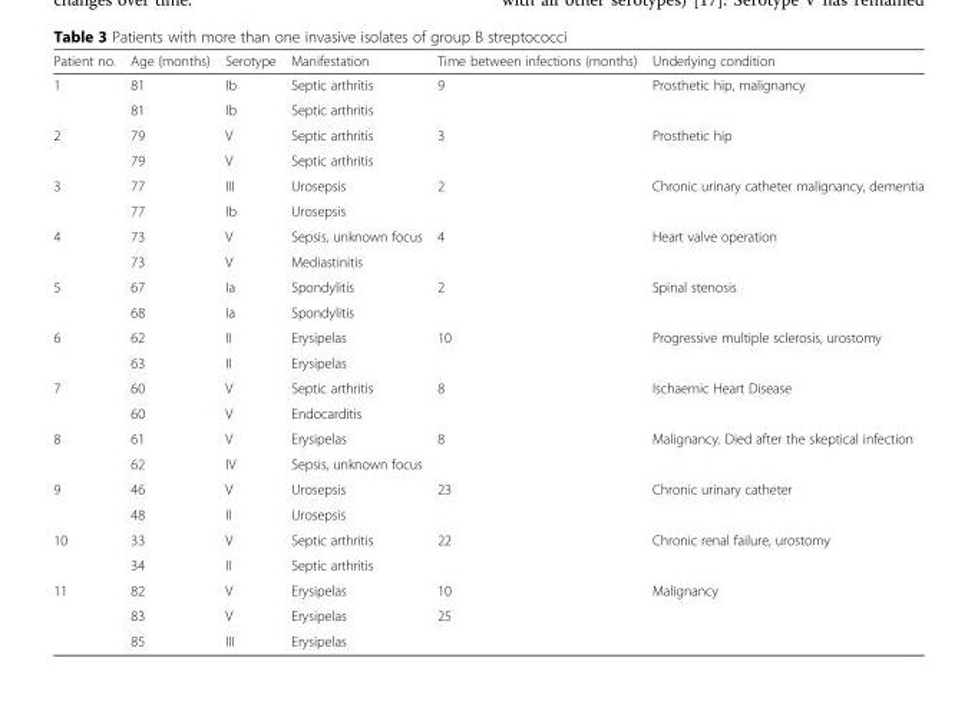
<table><thead><tr><td>Patient no.</td><td>Age (months)</td><td>Serotype</td><td>Manifestation</td><td>Time between infections (months)</td><td>Underlying condition</td></tr></thead><tbody><tr><td rowspan="2">1</td><td>81</td><td>Ib</td><td>Septic arthritis</td><td rowspan="2">9</td><td rowspan="2">Prosthetic hip, malignancy</td></tr><tr><td>81</td><td>Ib</td><td>Septic arthritis</td></tr><tr><td rowspan="2">2</td><td>79</td><td>V</td><td>Septic arthritis</td><td rowspan="2">3</td><td rowspan="2">Prosthetic hip</td></tr><tr><td>79</td><td>V</td><td>Septic arthritis</td></tr><tr><td rowspan="2">3</td><td>77</td><td>III</td><td>Urosepsis</td><td rowspan="2">2</td><td rowspan="2">Chronic urinary catheter malignancy, dementia</td></tr><tr><td>77</td><td>Ib</td><td>Urosepsis</td></tr><tr><td rowspan="2">4</td><td>73</td><td>V</td><td>Sepsis, unknown focus</td><td rowspan="2">4</td><td rowspan="2">Heart valve operation</td></tr><tr><td>73</td><td>V</td><td>Mediastinitis</td></tr><tr><td rowspan="2">5</td><td>67</td><td>Ia</td><td>Spondylitis</td><td rowspan="2">2</td><td rowspan="2">Spinal stenosis</td></tr><tr><td>68</td><td>Ia</td><td>Spondylitis</td></tr><tr><td rowspan="2">6</td><td>62</td><td>II</td><td>Erysipelas</td><td rowspan="2">10</td><td rowspan="2">Progressive multiple sclerosis, urostomy</td></tr><tr><td>63</td><td>II</td><td>Erysipelas</td></tr><tr><td rowspan="2">7</td><td>60</td><td>V</td><td>Septic arthritis</td><td rowspan="2">8</td><td rowspan="2">Ischaemic Heart Disease</td></tr><tr><td>60</td><td>V</td><td>Endocarditis</td></tr><tr><td rowspan="2">8</td><td>61</td><td>V</td><td>Erysipelas</td><td rowspan="2">8</td><td rowspan="2">Malignancy. Died after the skeptical infection</td></tr><tr><td>62</td><td>IV</td><td>Sepsis, unknown focus</td></tr><tr><td rowspan="2">9</td><td>46</td><td>V</td><td>Urosepsis</td><td rowspan="2">23</td><td rowspan="2">Chronic urinary catheter</td></tr><tr><td>48</td><td>II</td><td>Urosepsis</td></tr><tr><td rowspan="2">10</td><td>33</td><td>V</td><td>Septic arthritis</td><td rowspan="2">22</td><td rowspan="2">Chronic renal failure, urostomy</td></tr><tr><td>34</td><td>II</td><td>Septic arthritis</td></tr><tr><td rowspan="3">11</td><td>82</td><td>V</td><td>Erysipelas</td><td>10</td><td rowspan="3">Malignancy</td></tr><tr><td>83</td><td>V</td><td>Erysipelas</td><td rowspan="2">25</td></tr><tr><td>85</td><td>III</td><td>Erysipelas</td></tr></tbody></table>